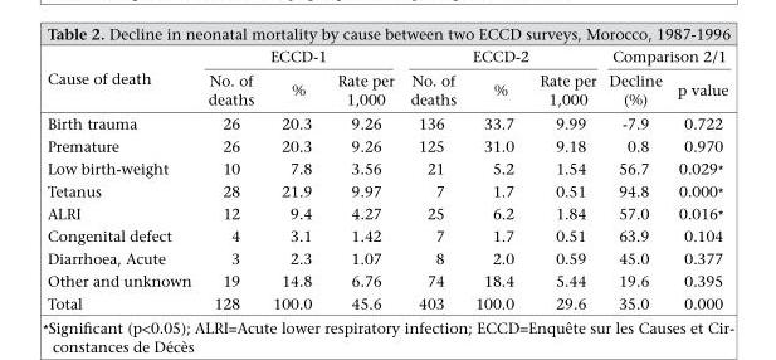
<table><thead><tr><td rowspan="2">Cause of death</td><td colspan="3">ECCD-1</td><td colspan="3">ECCD-2</td><td colspan="2">Comparison 2/1</td></tr><tr><td>No. of deaths</td><td>%</td><td>Rate per 1,000</td><td>No. of deaths</td><td>%</td><td>Rate per 1,000</td><td>Decline (%)</td><td>p value</td></tr></thead><tbody><tr><td>Birth trauma</td><td>26</td><td>20.3</td><td>9.26</td><td>136</td><td>33.7</td><td>9.99</td><td>-7.9</td><td>0.722</td></tr><tr><td>Premature</td><td>26</td><td>20.3</td><td>9.26</td><td>125</td><td>31.0</td><td>9.18</td><td>0.8</td><td>0.970</td></tr><tr><td>Low birth-weight</td><td>10</td><td>7.8</td><td>3.56</td><td>21</td><td>5.2</td><td>1.54</td><td>56.7</td><td>0.029*</td></tr><tr><td>Tetanus</td><td>28</td><td>21.9</td><td>9.97</td><td>7</td><td>1.7</td><td>0.51</td><td>94.8</td><td>0.000*</td></tr><tr><td>ALRI</td><td>12</td><td>9.4</td><td>4.27</td><td>25</td><td>6.2</td><td>1.84</td><td>57.0</td><td>0.016*</td></tr><tr><td>Congenital defect</td><td>4</td><td>3.1</td><td>1.42</td><td>7</td><td>1.7</td><td>0.51</td><td>63.9</td><td>0.104</td></tr><tr><td>Diarrhoea, Acute</td><td>3</td><td>2.3</td><td>1.07</td><td>8</td><td>2.0</td><td>0.59</td><td>45.0</td><td>0.377</td></tr><tr><td>Other and unknown</td><td>19</td><td>14.8</td><td>6.76</td><td>74</td><td>18.4</td><td>5.44</td><td>19.6</td><td>0.395</td></tr><tr><td>Total</td><td>128</td><td>100.0</td><td>45.6</td><td>403</td><td>100.0</td><td>29.6</td><td>35.0</td><td>0.000</td></tr></tbody></table>